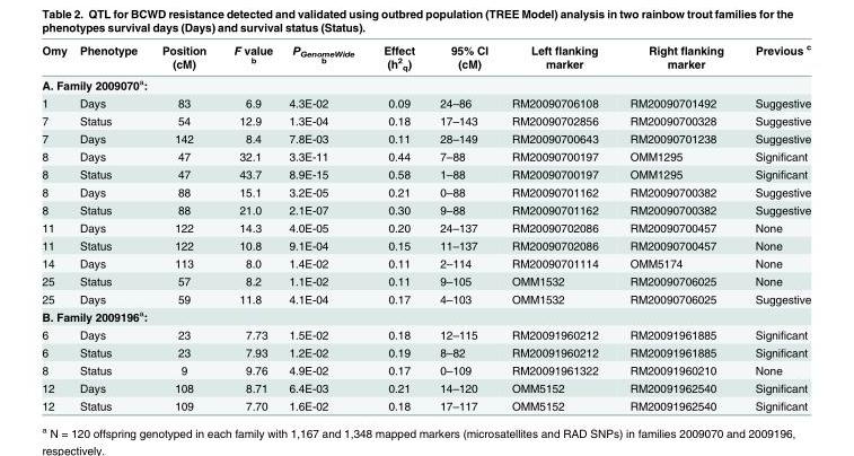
<table><thead><tr><td>Omy</td><td>Phenotype</td><td>Position (cM)</td><td>F value <sup>b</sup></td><td>P<sub>GenomeWide</sub> <sup>b</sup></td><td>Effect (h<sup>2</sup> <sub>q</sub>)</td><td>95% CI (cM)</td><td>Left flanking marker</td><td>Right flanking marker</td><td>Previous <sup>c</sup></td></tr></thead><tbody><tr><td colspan="10">A. Family 2009070<sup>a</sup>:</td></tr><tr><td>1</td><td>Days</td><td>83</td><td>6.9</td><td>4.3E-02</td><td>0.09</td><td>24–86</td><td>RM20090706108</td><td>RM20090701492</td><td>Suggestive</td></tr><tr><td>7</td><td>Status</td><td>54</td><td>12.9</td><td>1.3E-04</td><td>0.18</td><td>17–143</td><td>RM20090702856</td><td>RM20090700328</td><td>Suggestive</td></tr><tr><td>7</td><td>Days</td><td>142</td><td>8.4</td><td>7.8E-03</td><td>0.11</td><td>28–149</td><td>RM20090700643</td><td>RM20090701238</td><td>Suggestive</td></tr><tr><td>8</td><td>Days</td><td>47</td><td>32.1</td><td>3.3E-11</td><td>0.44</td><td>7–88</td><td>RM20090700197</td><td>OMM1295</td><td>Significant</td></tr><tr><td>8</td><td>Status</td><td>47</td><td>43.7</td><td>8.9E-15</td><td>0.58</td><td>1–88</td><td>RM20090700197</td><td>OMM1295</td><td>Significant</td></tr><tr><td>8</td><td>Days</td><td>88</td><td>15.1</td><td>3.2E-05</td><td>0.21</td><td>0–88</td><td>RM20090701162</td><td>RM20090700382</td><td>Suggestive</td></tr><tr><td>8</td><td>Status</td><td>88</td><td>21.0</td><td>2.1E-07</td><td>0.30</td><td>9–88</td><td>RM20090701162</td><td>RM20090700382</td><td>Suggestive</td></tr><tr><td>11</td><td>Days</td><td>122</td><td>14.3</td><td>4.0E-05</td><td>0.20</td><td>24–137</td><td>RM20090702086</td><td>RM20090700457</td><td>None</td></tr><tr><td>11</td><td>Status</td><td>122</td><td>10.8</td><td>9.1E-04</td><td>0.15</td><td>11–137</td><td>RM20090702086</td><td>RM20090700457</td><td>None</td></tr><tr><td>14</td><td>Days</td><td>113</td><td>8.0</td><td>1.4E-02</td><td>0.11</td><td>2–114</td><td>RM20090701114</td><td>OMM5174</td><td>None</td></tr><tr><td>25</td><td>Status</td><td>57</td><td>8.2</td><td>1.1E-02</td><td>0.11</td><td>9–105</td><td>OMM1532</td><td>RM20090706025</td><td>None</td></tr><tr><td>25</td><td>Days</td><td>59</td><td>11.8</td><td>4.1E-04</td><td>0.17</td><td>4–103</td><td>OMM1532</td><td>RM20090706025</td><td>Suggestive</td></tr><tr><td colspan="10">B. Family 2009196<sup>a</sup>:</td></tr><tr><td>6</td><td>Days</td><td>23</td><td>7.73</td><td>1.5E-02</td><td>0.18</td><td>12–115</td><td>RM20091960212</td><td>RM20091961885</td><td>Significant</td></tr><tr><td>6</td><td>Status</td><td>23</td><td>7.93</td><td>1.2E-02</td><td>0.19</td><td>8–82</td><td>RM20091960212</td><td>RM20091961885</td><td>Significant</td></tr><tr><td>8</td><td>Status</td><td>9</td><td>9.76</td><td>4.9E-02</td><td>0.17</td><td>0–109</td><td>RM20091961322</td><td>RM20091960210</td><td>None</td></tr><tr><td>12</td><td>Days</td><td>108</td><td>8.71</td><td>6.4E-03</td><td>0.21</td><td>14–120</td><td>OMM5152</td><td>RM20091962540</td><td>Significant</td></tr><tr><td>12</td><td>Status</td><td>109</td><td>7.70</td><td>1.6E-02</td><td>0.18</td><td>17–117</td><td>OMM5152</td><td>RM20091962540</td><td>Significant</td></tr></tbody></table>